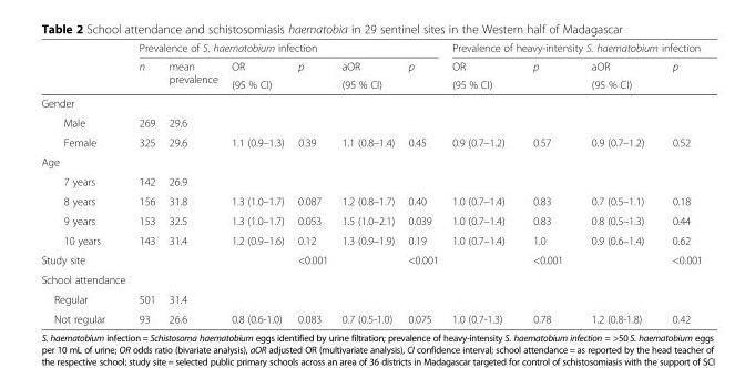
<table><thead><tr><td rowspan="3"></td><td colspan="6">Prevalence of S. haematobium infection</td><td colspan="4">Prevalence of heavy-intensity S. haematobium infection</td></tr><tr><td rowspan="2">n</td><td rowspan="2">mean prevalence</td><td rowspan="2">OR (95 % CI)</td><td rowspan="2">p</td><td rowspan="2">aOR (95 % CI)</td><td rowspan="2">p</td><td rowspan="2">OR (95 % CI)</td><td rowspan="2">p</td><td rowspan="2">aOR (95 % CI)</td><td rowspan="2">p</td></tr><tr></tr></thead><tbody><tr><td colspan="11">Gender</td></tr><tr><td>Male</td><td>269</td><td>29.6</td><td></td><td></td><td></td><td></td><td></td><td></td><td></td><td></td></tr><tr><td>Female</td><td>325</td><td>29.6</td><td>1.1 (0.9–1.3)</td><td>0.39</td><td>1.1 (0.8–1.4)</td><td>0.45</td><td>0.9 (0.7–1.2)</td><td>0.57</td><td>0.9 (0.7–1.2)</td><td>0.52</td></tr><tr><td colspan="11">Age</td></tr><tr><td>7 years</td><td>142</td><td>26.9</td><td></td><td></td><td></td><td></td><td></td><td></td><td></td><td></td></tr><tr><td>8 years</td><td>156</td><td>31.8</td><td>1.3 (1.0–1.7)</td><td>0.087</td><td>1.2 (0.8–1.7)</td><td>0.40</td><td>1.0 (0.7–1.4)</td><td>0.83</td><td>0.7 (0.5–1.1)</td><td>0.18</td></tr><tr><td>9 years</td><td>153</td><td>32.5</td><td>1.3 (1.0–1.7)</td><td>0.053</td><td>1.5 (1.0–2.1)</td><td>0.039</td><td>1.0 (0.7–1.4)</td><td>0.83</td><td>0.8 (0.5–1.3)</td><td>0.44</td></tr><tr><td>10 years</td><td>143</td><td>31.4</td><td>1.2 (0.9–1.6)</td><td>0.12</td><td>1.3 (0.9–1.9)</td><td>0.19</td><td>1.0 (0.7–1.4)</td><td>1.0</td><td>0.9 (0.6–1.4)</td><td>0.62</td></tr><tr><td>Study site</td><td></td><td></td><td></td><td>&lt;0.001</td><td></td><td>&lt;0.001</td><td></td><td>&lt;0.001</td><td></td><td>&lt;0.001</td></tr><tr><td colspan="11">School attendance</td></tr><tr><td>Regular</td><td>501</td><td>31.4</td><td></td><td></td><td></td><td></td><td></td><td></td><td></td><td></td></tr><tr><td>Not regular</td><td>93</td><td>26.6</td><td>0.8 (0.6-1.0)</td><td>0.083</td><td>0.7 (0.5-1.0)</td><td>0.075</td><td>1.0 (0.7-1.3)</td><td>0.78</td><td>1.2 (0.8-1.8)</td><td>0.42</td></tr></tbody></table>